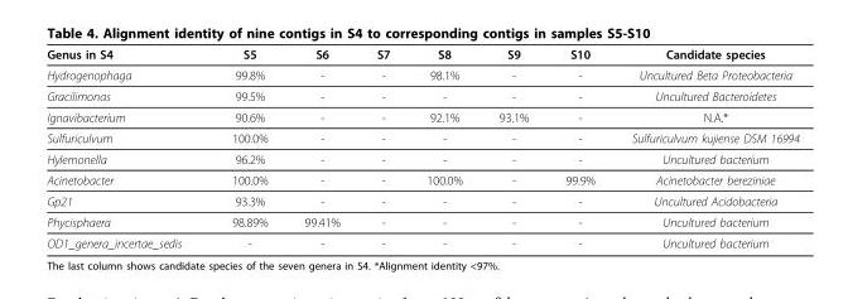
<table><thead><tr><td>Genus in S4</td><td>S5</td><td>S6</td><td>S7</td><td>S8</td><td>S9</td><td>S10</td><td>Candidate species</td></tr></thead><tbody><tr><td>Hydrogenophaga</td><td>99.8%</td><td>-</td><td>-</td><td>98.1%</td><td>-</td><td>-</td><td>Uncultured Beta Proteobacteria</td></tr><tr><td>Gracilimonas</td><td>99.5%</td><td>-</td><td>-</td><td>-</td><td>-</td><td>-</td><td>Uncultured Bacteroidetes</td></tr><tr><td>Ignavibacterium</td><td>90.6%</td><td>-</td><td>-</td><td>92.1%</td><td>93.1%</td><td>-</td><td>N.A.*</td></tr><tr><td>Sulfuriculvum</td><td>100.0%</td><td>-</td><td>-</td><td>-</td><td>-</td><td>-</td><td>Sulfuriculvum kujiense DSM 16994</td></tr><tr><td>Hylemonella</td><td>96.2%</td><td>-</td><td>-</td><td>-</td><td>-</td><td>-</td><td>Uncultured bacterium</td></tr><tr><td>Acinetobacter</td><td>100.0%</td><td>-</td><td>-</td><td>100.0%</td><td>-</td><td>99.9%</td><td>Acinetobacter bereziniae</td></tr><tr><td>Gp21</td><td>93.3%</td><td>-</td><td>-</td><td>-</td><td>-</td><td>-</td><td>Uncultured Acidobacteria</td></tr><tr><td>Phycisphaera</td><td>98.89%</td><td>99.41%</td><td>-</td><td>-</td><td>-</td><td>-</td><td>Uncultured bacterium</td></tr><tr><td>OD1_genera_incertae_sedis</td><td>-</td><td>-</td><td>-</td><td>-</td><td>-</td><td>-</td><td>Uncultured bacterium</td></tr></tbody></table>